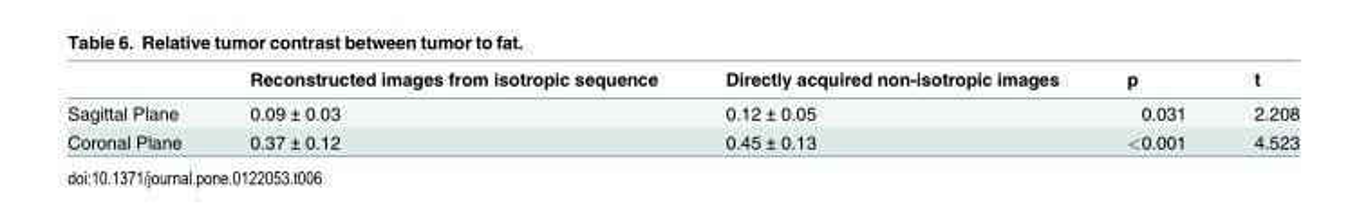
<table><thead><tr><td></td><td>Reconstructed images from isotropic sequence</td><td>Directly acquired non-isotropic images</td><td>p</td><td>t</td></tr></thead><tbody><tr><td>Sagittal Plane</td><td>0.09 ± 0.03</td><td>0.12 ± 0.05</td><td>0.031</td><td>2.208</td></tr><tr><td>Coronal Plane</td><td>0.37 ± 0.12</td><td>0.45 ± 0.13</td><td>&lt;0.001</td><td>4.523</td></tr></tbody></table>